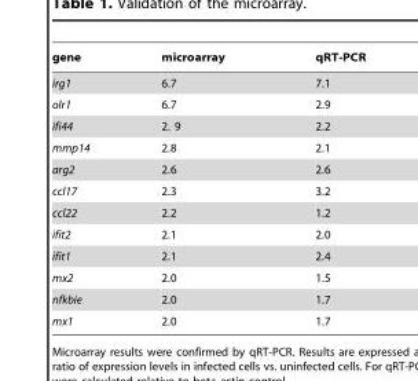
<table><thead><tr><td>gene</td><td>microarray</td><td>qRT-PCR</td></tr></thead><tbody><tr><td>irg1</td><td>6.7</td><td>7.1</td></tr><tr><td>olr1</td><td>6.7</td><td>2.9</td></tr><tr><td>ifi44</td><td>2. 9</td><td>2.2</td></tr><tr><td>mmp14</td><td>2.8</td><td>2.1</td></tr><tr><td>arg2</td><td>2.6</td><td>2.6</td></tr><tr><td>ccl17</td><td>2.3</td><td>3.2</td></tr><tr><td>ccl22</td><td>2.2</td><td>1.2</td></tr><tr><td>ifit2</td><td>2.1</td><td>2.0</td></tr><tr><td>ifit1</td><td>2.1</td><td>2.4</td></tr><tr><td>mx2</td><td>2.0</td><td>1.5</td></tr><tr><td>nfkbie</td><td>2.0</td><td>1.7</td></tr><tr><td>mx1</td><td>2.0</td><td>1.7</td></tr></tbody></table>